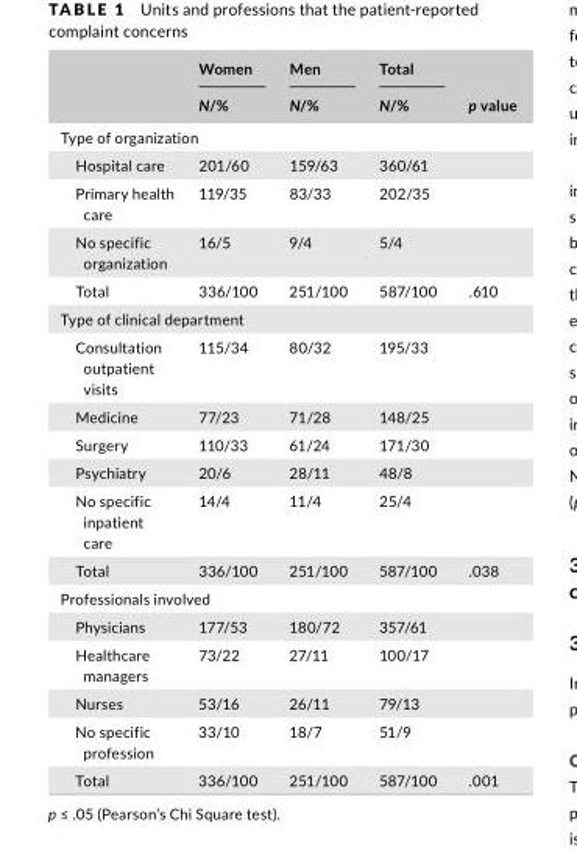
<table><thead><tr><td rowspan="2"></td><td rowspan="2">Women N/%</td><td rowspan="2">Men N/%</td><td rowspan="2">Total N/%</td><td rowspan="2">p value</td></tr><tr></tr></thead><tbody><tr><td colspan="5">Type of organization</td></tr><tr><td>Hospital care</td><td>201/60</td><td>159/63</td><td>360/61</td><td></td></tr><tr><td>Primary health care</td><td>119/35</td><td>83/33</td><td>202/35</td><td></td></tr><tr><td>No specific organization</td><td>16/5</td><td>9/4</td><td>5/4</td><td></td></tr><tr><td>Total</td><td>336/100</td><td>251/100</td><td>587/100</td><td>.610</td></tr><tr><td colspan="5">Type of clinical department</td></tr><tr><td>Consultation outpatient visits</td><td>115/34</td><td>80/32</td><td>195/33</td><td></td></tr><tr><td>Medicine</td><td>77/23</td><td>71/28</td><td>148/25</td><td></td></tr><tr><td>Surgery</td><td>110/33</td><td>61/24</td><td>171/30</td><td></td></tr><tr><td>Psychiatry</td><td>20/6</td><td>28/11</td><td>48/8</td><td></td></tr><tr><td>No specific inpatient care</td><td>14/4</td><td>11/4</td><td>25/4</td><td></td></tr><tr><td>Total</td><td>336/100</td><td>251/100</td><td>587/100</td><td>.038</td></tr><tr><td colspan="5">Professionals involved</td></tr><tr><td>Physicians</td><td>177/53</td><td>180/72</td><td>357/61</td><td></td></tr><tr><td>Healthcare managers</td><td>73/22</td><td>27/11</td><td>100/17</td><td></td></tr><tr><td>Nurses</td><td>53/16</td><td>26/11</td><td>79/13</td><td></td></tr><tr><td>No specific profession</td><td>33/10</td><td>18/7</td><td>51/9</td><td></td></tr><tr><td>Total</td><td>336/100</td><td>251/100</td><td>587/100</td><td>.001</td></tr></tbody></table>